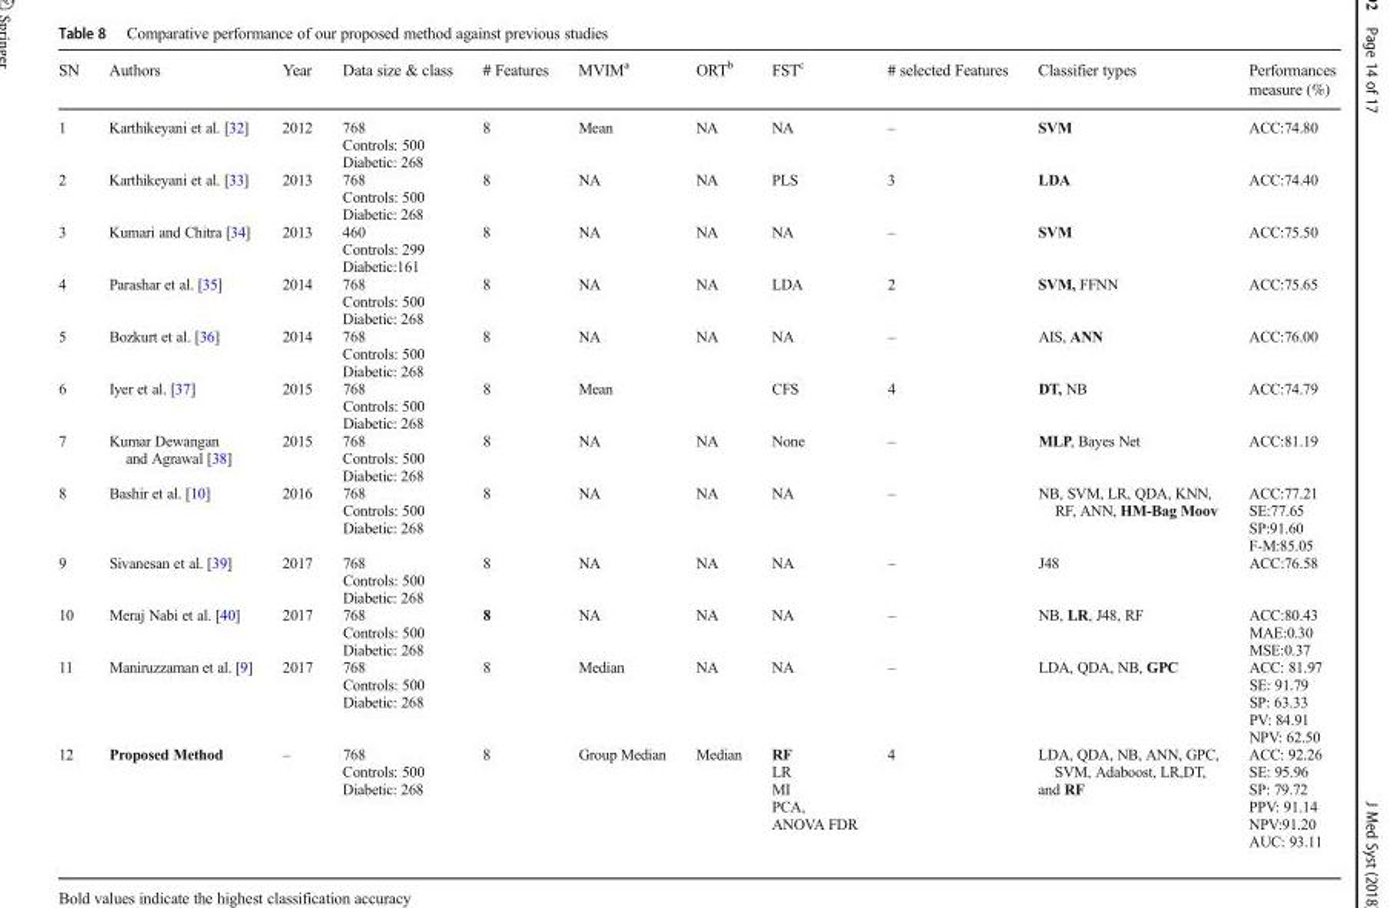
<table><thead><tr><td>SN</td><td>Authors</td><td>Year</td><td>Data size &amp; class</td><td># Features</td><td>MVIM<sup>a</sup></td><td>ORT<sup>b</sup></td><td>FST<sup>c</sup></td><td># selected Features</td><td>Classifier types</td><td>Performances measure (%)</td></tr></thead><tbody><tr><td>1</td><td>Karthikeyani et al. [32]</td><td>2012</td><td>768 Controls: 500 Diabetic: 268</td><td>8</td><td>Mean</td><td>NA</td><td>NA</td><td>–</td><td>SVM</td><td>ACC:74.80</td></tr><tr><td>2</td><td>Karthikeyani et al. [33]</td><td>2013</td><td>768 Controls: 500 Diabetic: 268</td><td>8</td><td>NA</td><td>NA</td><td>PLS</td><td>3</td><td>LDA</td><td>ACC:74.40</td></tr><tr><td>3</td><td>Kumari and Chitra [34]</td><td>2013</td><td>460 Controls: 299 Diabetic:161</td><td>8</td><td>NA</td><td>NA</td><td>NA</td><td>–</td><td>SVM</td><td>ACC:75.50</td></tr><tr><td>4</td><td>Parashar et al. [35]</td><td>2014</td><td>768 Controls: 500 Diabetic: 268</td><td>8</td><td>NA</td><td>NA</td><td>LDA</td><td>2</td><td>SVM, FFNN</td><td>ACC:75.65</td></tr><tr><td>5</td><td>Bozkurt et al. [36]</td><td>2014</td><td>768 Controls: 500 Diabetic: 268</td><td>8</td><td>NA</td><td>NA</td><td>NA</td><td>–</td><td>AIS, ANN</td><td>ACC:76.00</td></tr><tr><td>6</td><td>Iyer et al. [37]</td><td>2015</td><td>768 Controls: 500 Diabetic: 268</td><td>8</td><td>Mean</td><td></td><td>CFS</td><td>4</td><td>DT, NB</td><td>ACC:74.79</td></tr><tr><td>7</td><td>Kumar Dewangan and Agrawal [38]</td><td>2015</td><td>768 Controls: 500 Diabetic: 268</td><td>8</td><td>NA</td><td>NA</td><td>None</td><td>–</td><td>MLP, Bayes Net</td><td>ACC:81.19</td></tr><tr><td>8</td><td>Bashir et al. [10]</td><td>2016</td><td>768 Controls: 500 Diabetic: 268</td><td>8</td><td>NA</td><td>NA</td><td>NA</td><td>–</td><td>NB, SVM, LR, QDA, KNN, RF, ANN, HM-Bag Moov</td><td>ACC:77.21 SE:77.65 SP:91.60 F-M:85.05</td></tr><tr><td>9</td><td>Sivanesan et al. [39]</td><td>2017</td><td>768 Controls: 500 Diabetic: 268</td><td>8</td><td>NA</td><td>NA</td><td>NA</td><td>–</td><td>J48</td><td>ACC:76.58</td></tr><tr><td>10</td><td>Meraj Nabi et al. [40]</td><td>2017</td><td>768 Controls: 500 Diabetic: 268</td><td>8</td><td>NA</td><td>NA</td><td>NA</td><td>–</td><td>NB, LR, J48, RF</td><td>ACC:80.43 MAE:0.30 MSE:0.37</td></tr><tr><td>11</td><td>Maniruzzaman et al. [9]</td><td>2017</td><td>768 Controls: 500 Diabetic: 268</td><td>8</td><td>Median</td><td>NA</td><td>NA</td><td>–</td><td>LDA, QDA, NB, GPC</td><td>ACC: 81.97 SE: 91.79 SP: 63.33 PV: 84.91 NPV: 62.50</td></tr><tr><td>12</td><td>Proposed Method</td><td>–</td><td>768 Controls: 500 Diabetic: 268</td><td>8</td><td>Group Median</td><td>Median</td><td>RF LR MI PCA, ANOVA FDR</td><td>4</td><td>LDA, QDA, NB, ANN, GPC, SVM, Adaboost, LR,DT, and RF</td><td>ACC: 92.26 SE: 95.96 SP: 79.72 PPV: 91.14 NPV:91.20 AUC: 93.11</td></tr></tbody></table>